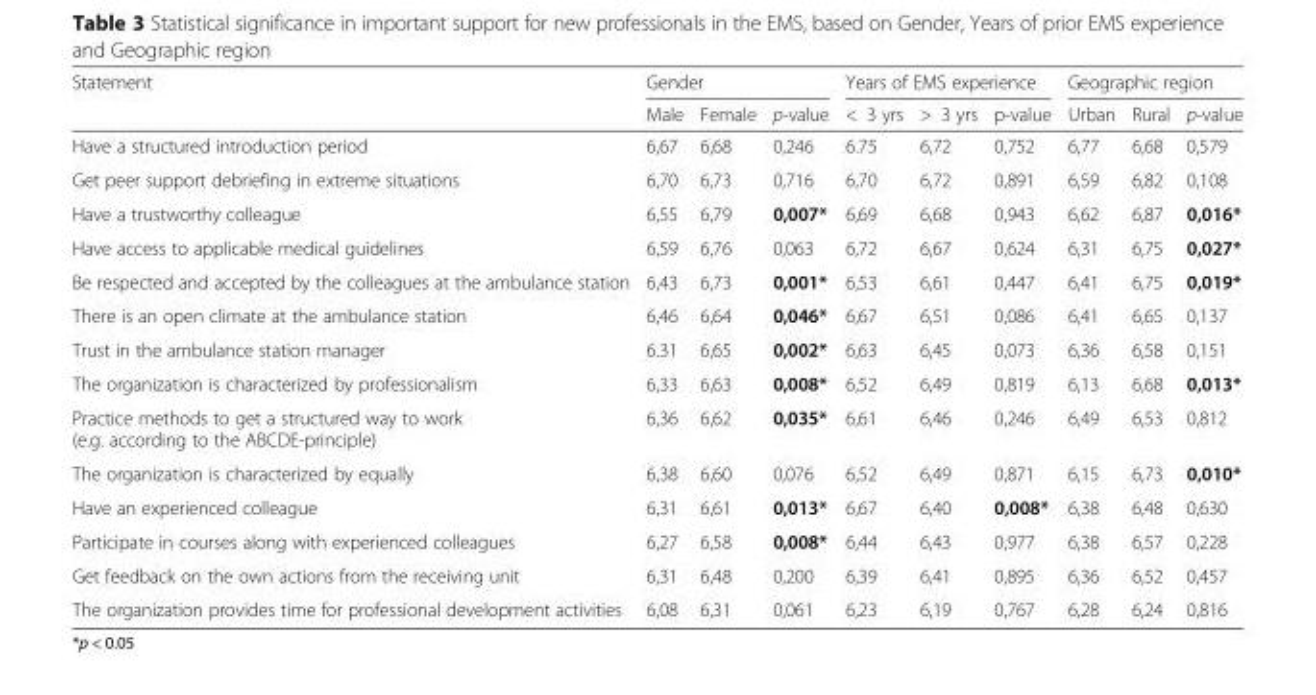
<table><thead><tr><td rowspan="2">Statement</td><td colspan="3">Gender</td><td colspan="3">Years of EMS experience</td><td colspan="3">Geographic region</td></tr><tr><td>Male</td><td>Female</td><td>p-value</td><td>&lt; 3 yrs</td><td>&gt; 3 yrs</td><td>p-value</td><td>Urban</td><td>Rural</td><td>p-value</td></tr></thead><tbody><tr><td>Have a structured introduction period</td><td>6,67</td><td>6,68</td><td>0,246</td><td>6.75</td><td>6,72</td><td>0,752</td><td>6,77</td><td>6,68</td><td>0,579</td></tr><tr><td>Get peer support debriefing in extreme situations</td><td>6,70</td><td>6,73</td><td>0,716</td><td>6,70</td><td>6,72</td><td>0,891</td><td>6,59</td><td>6,82</td><td>0,108</td></tr><tr><td>Have a trustworthy colleague</td><td>6,55</td><td>6,79</td><td>0,007*</td><td>6,69</td><td>6,68</td><td>0,943</td><td>6,62</td><td>6,87</td><td>0,016*</td></tr><tr><td>Have access to applicable medical guidelines</td><td>6,59</td><td>6,76</td><td>0,063</td><td>6,72</td><td>6,67</td><td>0,624</td><td>6,31</td><td>6,75</td><td>0,027*</td></tr><tr><td>Be respected and accepted by the colleagues at the ambulance station</td><td>6,43</td><td>6,73</td><td>0,001*</td><td>6,53</td><td>6,61</td><td>0,447</td><td>6,41</td><td>6,75</td><td>0,019*</td></tr><tr><td>There is an open climate at the ambulance station</td><td>6,46</td><td>6,64</td><td>0,046*</td><td>6,67</td><td>6,51</td><td>0,086</td><td>6,41</td><td>6,65</td><td>0,137</td></tr><tr><td>Trust in the ambulance station manager</td><td>6.31</td><td>6,65</td><td>0,002*</td><td>6,63</td><td>6,45</td><td>0,073</td><td>6,36</td><td>6,58</td><td>0,151</td></tr><tr><td>The organization is characterized by professionalism</td><td>6,33</td><td>6,63</td><td>0,008*</td><td>6,52</td><td>6,49</td><td>0,819</td><td>6,13</td><td>6,68</td><td>0,013*</td></tr><tr><td>Practice methods to get a structured way to work (e.g. according to the ABCDE-principle)</td><td>6,36</td><td>6,62</td><td>0,035*</td><td>6,61</td><td>6,46</td><td>0,246</td><td>6,49</td><td>6,53</td><td>0,812</td></tr><tr><td>The organization is characterized by equally</td><td>6,38</td><td>6,60</td><td>0,076</td><td>6,52</td><td>6,49</td><td>0,871</td><td>6,15</td><td>6,73</td><td>0,010*</td></tr><tr><td>Have an experienced colleague</td><td>6,31</td><td>6,61</td><td>0,013*</td><td>6,67</td><td>6,40</td><td>0,008*</td><td>6,38</td><td>6,48</td><td>0,630</td></tr><tr><td>Participate in courses along with experienced colleagues</td><td>6,27</td><td>6,58</td><td>0,008*</td><td>6,44</td><td>6,43</td><td>0,977</td><td>6,38</td><td>6,57</td><td>0,228</td></tr><tr><td>Get feedback on the own actions from the receiving unit</td><td>6,31</td><td>6,48</td><td>0,200</td><td>6,39</td><td>6,41</td><td>0,895</td><td>6,36</td><td>6,52</td><td>0,457</td></tr><tr><td>The organization provides time for professional development activities</td><td>6,08</td><td>6,31</td><td>0,061</td><td>6,23</td><td>6,19</td><td>0,767</td><td>6,28</td><td>6,24</td><td>0,816</td></tr></tbody></table>